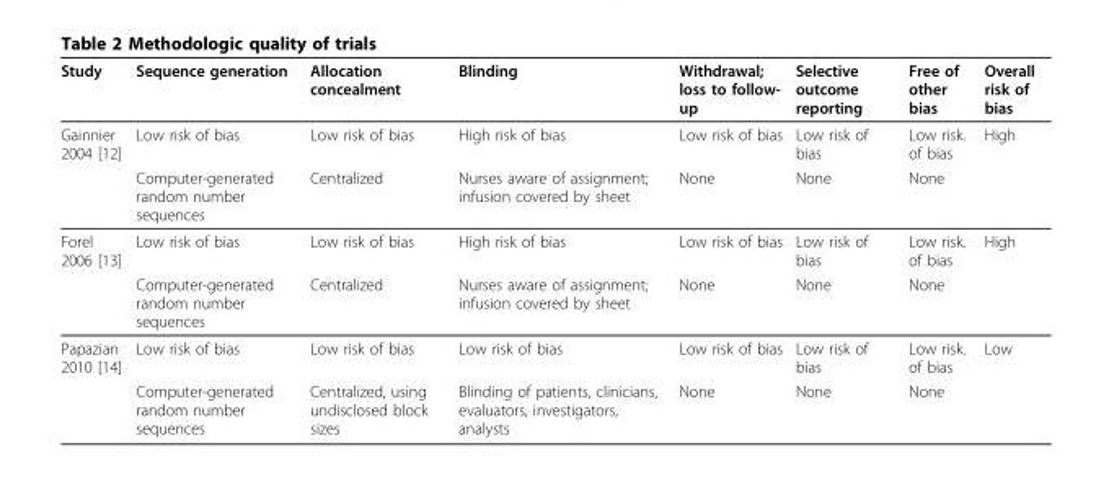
<table><thead><tr><td>Study</td><td>Sequence generation</td><td>Allocation concealment</td><td>Blinding</td><td>Withdrawal; loss to follow- up</td><td>Selective outcome reporting</td><td>Free of other bias</td><td>Overall risk of bias</td></tr></thead><tbody><tr><td rowspan="2">Gainnier 2004 [12]</td><td>Low risk of bias</td><td>Low risk of bias</td><td>High risk of bias</td><td>Low risk of bias</td><td>Low risk of bias</td><td>Low risk. of bias</td><td>High</td></tr><tr><td>Computer-generated random number sequences</td><td>Centralized</td><td>Nurses aware of assignment; infusion covered by sheet</td><td>None</td><td>None</td><td>None</td><td></td></tr><tr><td rowspan="2">Forel 2006 [13]</td><td>Low risk of bias</td><td>Low risk of bias</td><td>High risk of bias</td><td>Low risk of bias</td><td>Low risk of bias</td><td>Low risk. of bias</td><td>High</td></tr><tr><td>Computer-generated random number sequences</td><td>Centralized</td><td>Nurses aware of assignment; infusion covered by sheet</td><td>None</td><td>None</td><td>None</td><td></td></tr><tr><td rowspan="2">Papazian 2010 [14]</td><td>Low risk of bias</td><td>Low risk of bias</td><td>Low risk of bias</td><td>Low risk of bias</td><td>Low risk of bias</td><td>Low risk. of bias</td><td>Low</td></tr><tr><td>Computer-generated random number sequences</td><td>Centralized, using undisclosed block sizes</td><td>Blinding of patients, clinicians, evaluators, investigators, analysts</td><td>None</td><td>None</td><td>None</td><td></td></tr></tbody></table>